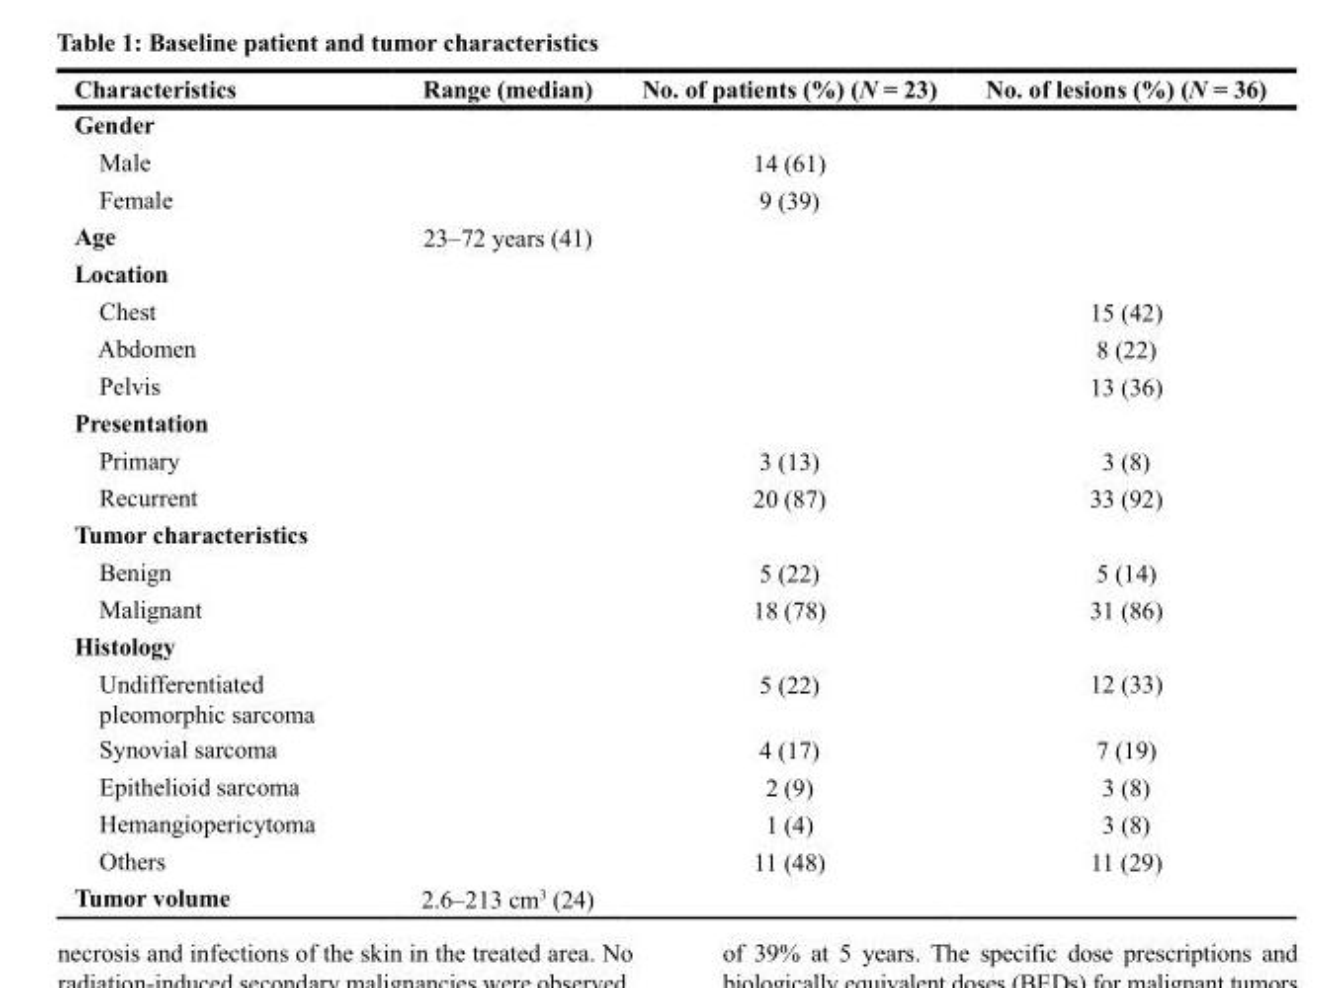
<table><thead><tr><td>Characteristics</td><td>Range (median)</td><td>No. of patients (%) (N = 23)</td><td>No. of lesions (%) (N = 36)</td></tr></thead><tbody><tr><td colspan="4">Gender</td></tr><tr><td>Male</td><td></td><td>14 (61)</td><td></td></tr><tr><td>Female</td><td></td><td>9 (39)</td><td></td></tr><tr><td>Age</td><td>23–72 years (41)</td><td></td><td></td></tr><tr><td colspan="4">Location</td></tr><tr><td>Chest</td><td></td><td></td><td>15 (42)</td></tr><tr><td>Abdomen</td><td></td><td></td><td>8 (22)</td></tr><tr><td>Pelvis</td><td></td><td></td><td>13 (36)</td></tr><tr><td colspan="4">Presentation</td></tr><tr><td>Primary</td><td></td><td>3 (13)</td><td>3 (8)</td></tr><tr><td>Recurrent</td><td></td><td>20 (87)</td><td>33 (92)</td></tr><tr><td colspan="4">Tumor characteristics</td></tr><tr><td>Benign</td><td></td><td>5 (22)</td><td>5 (14)</td></tr><tr><td>Malignant</td><td></td><td>18 (78)</td><td>31 (86)</td></tr><tr><td colspan="4">Histology</td></tr><tr><td>Undifferentiated pleomorphic sarcoma</td><td></td><td>5 (22)</td><td>12 (33)</td></tr><tr><td>Synovial sarcoma</td><td></td><td>4 (17)</td><td>7 (19)</td></tr><tr><td>Epithelioid sarcoma</td><td></td><td>2 (9)</td><td>3 (8)</td></tr><tr><td>Hemangiopericytoma</td><td></td><td>1 (4)</td><td>3 (8)</td></tr><tr><td>Others</td><td></td><td>11 (48)</td><td>11 (29)</td></tr><tr><td>Tumor volume</td><td>2.6–213 cm<sup>3</sup> (24)</td><td></td><td></td></tr></tbody></table>